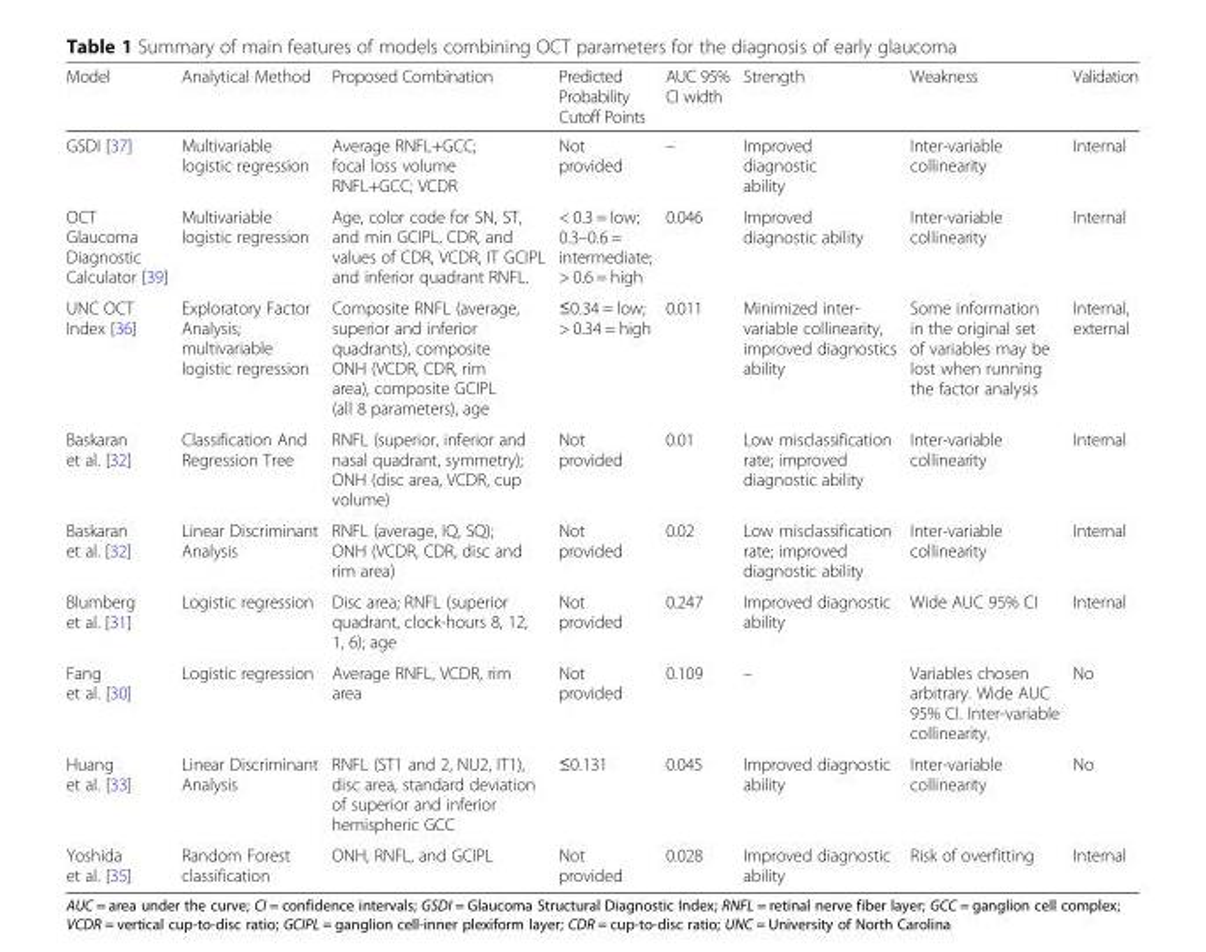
<table><thead><tr><td>Model</td><td>Analytical Method</td><td>Proposed Combination</td><td>Predicted Probability Cutoff Points</td><td>AUC 95% CI width</td><td>Strength</td><td>Weakness</td><td>Validation</td></tr></thead><tbody><tr><td>GSDI [37]</td><td>Multivariable logistic regression</td><td>Average RNFL+GCC; focal loss volume RNFL+GCC; VCDR</td><td>Not provided</td><td>–</td><td>Improved diagnostic ability</td><td>Inter-variable collinearity</td><td>Internal</td></tr><tr><td>OCT Glaucoma Diagnostic Calculator [39]</td><td>Multivariable logistic regression</td><td>Age, color code for SN, ST, and min GCIPL, CDR, and values of CDR, VCDR, IT GCIPL and inferior quadrant RNFL.</td><td>&lt; 0.3 = low; 0.3–0.6 = intermediate; &gt; 0.6 = high</td><td>0.046</td><td>Improved diagnostic ability</td><td>Inter-variable collinearity</td><td>Internal</td></tr><tr><td>UNC OCT Index [36]</td><td>Exploratory Factor Analysis; multivariable logistic regression</td><td>Composite RNFL (average, superior and inferior quadrants), composite ONH (VCDR, CDR, rim area), composite GCIPL (all 8 parameters), age</td><td>≤0.34 = low; &gt; 0.34 = high</td><td>0.011</td><td>Minimized inter- variable collinearity, improved diagnostics ability</td><td>Some information in the original set of variables may be lost when running the factor analysis</td><td>Internal, external</td></tr><tr><td>Baskaran et al. [32]</td><td>Classification And Regression Tree</td><td>RNFL (superior, inferior and nasal quadrant, symmetry); ONH (disc area, VCDR, cup volume)</td><td>Not provided</td><td>0.01</td><td>Low misclassification rate; improved diagnostic ability</td><td>Inter-variable collinearity</td><td>Internal</td></tr><tr><td>Baskaran et al. [32]</td><td>Linear Discriminant Analysis</td><td>RNFL (average, IQ, SQ); ONH (VCDR, CDR, disc and rim area)</td><td>Not provided</td><td>0.02</td><td>Low misclassification rate; improved diagnostic ability</td><td>Inter-variable collinearity</td><td>Internal</td></tr><tr><td>Blumberg et al. [31]</td><td>Logistic regression</td><td>Disc area; RNFL (superior quadrant, clock-hours 8, 12, 1, 6); age</td><td>Not provided</td><td>0.247</td><td>Improved diagnostic ability</td><td>Wide AUC 95% CI</td><td>Internal</td></tr><tr><td>Fang et al. [30]</td><td>Logistic regression</td><td>Average RNFL, VCDR, rim area</td><td>Not provided</td><td>0.109</td><td>–</td><td>Variables chosen arbitrary. Wide AUC 95% CI. Inter-variable collinearity.</td><td>No</td></tr><tr><td>Huang et al. [33]</td><td>Linear Discriminant Analysis</td><td>RNFL (ST1 and 2, NU2, IT1), disc area, standard deviation of superior and inferior hemispheric GCC</td><td>≤0.131</td><td>0.045</td><td>Improved diagnostic ability</td><td>Inter-variable collinearity</td><td>No</td></tr><tr><td>Yoshida et al. [35]</td><td>Random Forest classification</td><td>ONH, RNFL, and GCIPL</td><td>Not provided</td><td>0.028</td><td>Improved diagnostic ability</td><td>Risk of overfitting</td><td>Internal</td></tr></tbody></table>